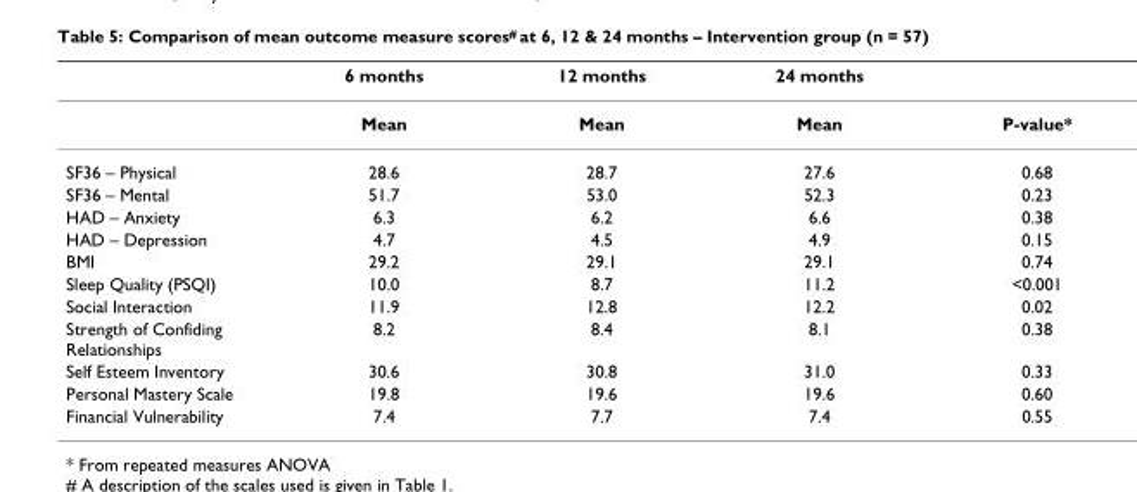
<table><thead><tr><td></td><td>6 months</td><td>12 months</td><td>24 months</td><td></td></tr></thead><tbody><tr><td></td><td>Mean</td><td>Mean</td><td>Mean</td><td>P-value*</td></tr><tr><td>SF36 – Physical</td><td>28.6</td><td>28.7</td><td>27.6</td><td>0.68</td></tr><tr><td>SF36 – Mental</td><td>51.7</td><td>53.0</td><td>52.3</td><td>0.23</td></tr><tr><td>HAD – Anxiety</td><td>6.3</td><td>6.2</td><td>6.6</td><td>0.38</td></tr><tr><td>HAD – Depression</td><td>4.7</td><td>4.5</td><td>4.9</td><td>0.15</td></tr><tr><td>BMI</td><td>29.2</td><td>29.1</td><td>29.1</td><td>0.74</td></tr><tr><td>Sleep Quality (PSQI)</td><td>10.0</td><td>8.7</td><td>11.2</td><td>&lt;0.001</td></tr><tr><td>Social Interaction</td><td>11.9</td><td>12.8</td><td>12.2</td><td>0.02</td></tr><tr><td>Strength of Confiding Relationships</td><td>8.2</td><td>8.4</td><td>8.1</td><td>0.38</td></tr><tr><td>Self Esteem Inventory</td><td>30.6</td><td>30.8</td><td>31.0</td><td>0.33</td></tr><tr><td>Personal Mastery Scale</td><td>19.8</td><td>19.6</td><td>19.6</td><td>0.60</td></tr><tr><td>Financial Vulnerability</td><td>7.4</td><td>7.7</td><td>7.4</td><td>0.55</td></tr></tbody></table>